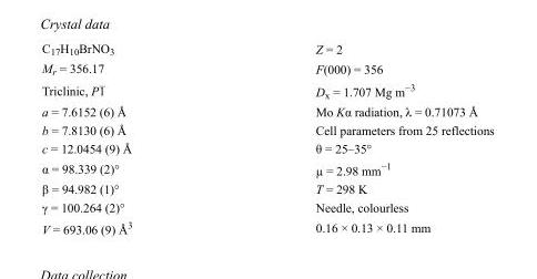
<table><tbody><tr><td>C<sub>17</sub>H<sub>10</sub>BrNO<sub>3</sub></td><td>Z = 2</td></tr><tr><td>M<sub>r</sub> = 356.17</td><td>F(000) = 356</td></tr><tr><td>Triclinic, P1</td><td>D<sub>x</sub> = 1.707 Mg m<sup>−3</sup></td></tr><tr><td>a = 7.6152 (6) Å</td><td>Mo Kα radiation, λ = 0.71073 Å</td></tr><tr><td>b = 7.8130 (6) Å</td><td>Cell parameters from 25 reflections</td></tr><tr><td>c = 12.0454 (9) Å</td><td>θ = 25–35°</td></tr><tr><td>α = 98.339 (2)°</td><td>µ = 2.98 mm<sup>−1</sup></td></tr><tr><td>β = 94.982 (1)°</td><td>T = 298 K</td></tr><tr><td>γ = 100.264 (2)°</td><td>Needle, colourless</td></tr><tr><td>V = 693.06 (9) Å<sup>3</sup></td><td>0.16 × 0.13 × 0.11 mm</td></tr></tbody></table>